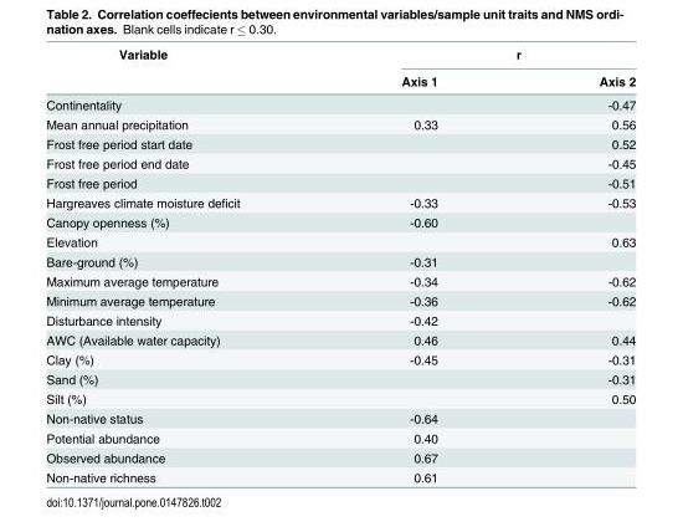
<table><thead><tr><td rowspan="2">Variable</td><td colspan="2">r</td></tr><tr><td>Axis 1</td><td>Axis 2</td></tr></thead><tbody><tr><td>Continentality</td><td></td><td>-0.47</td></tr><tr><td>Mean annual precipitation</td><td>0.33</td><td>0.56</td></tr><tr><td>Frost free period start date</td><td></td><td>0.52</td></tr><tr><td>Frost free period end date</td><td></td><td>-0.45</td></tr><tr><td>Frost free period</td><td></td><td>-0.51</td></tr><tr><td>Hargreaves climate moisture deficit</td><td>-0.33</td><td>-0.53</td></tr><tr><td>Canopy openness (%)</td><td>-0.60</td><td></td></tr><tr><td>Elevation</td><td></td><td>0.63</td></tr><tr><td>Bare-ground (%)</td><td>-0.31</td><td></td></tr><tr><td>Maximum average temperature</td><td>-0.34</td><td>-0.62</td></tr><tr><td>Minimum average temperature</td><td>-0.36</td><td>-0.62</td></tr><tr><td>Disturbance intensity</td><td>-0.42</td><td></td></tr><tr><td>AWC (Available water capacity)</td><td>0.46</td><td>0.44</td></tr><tr><td>Clay (%)</td><td>-0.45</td><td>-0.31</td></tr><tr><td>Sand (%)</td><td></td><td>-0.31</td></tr><tr><td>Silt (%)</td><td></td><td>0.50</td></tr><tr><td>Non-native status</td><td>-0.64</td><td></td></tr><tr><td>Potential abundance</td><td>0.40</td><td></td></tr><tr><td>Observed abundance</td><td>0.67</td><td></td></tr><tr><td>Non-native richness</td><td>0.61</td><td></td></tr></tbody></table>